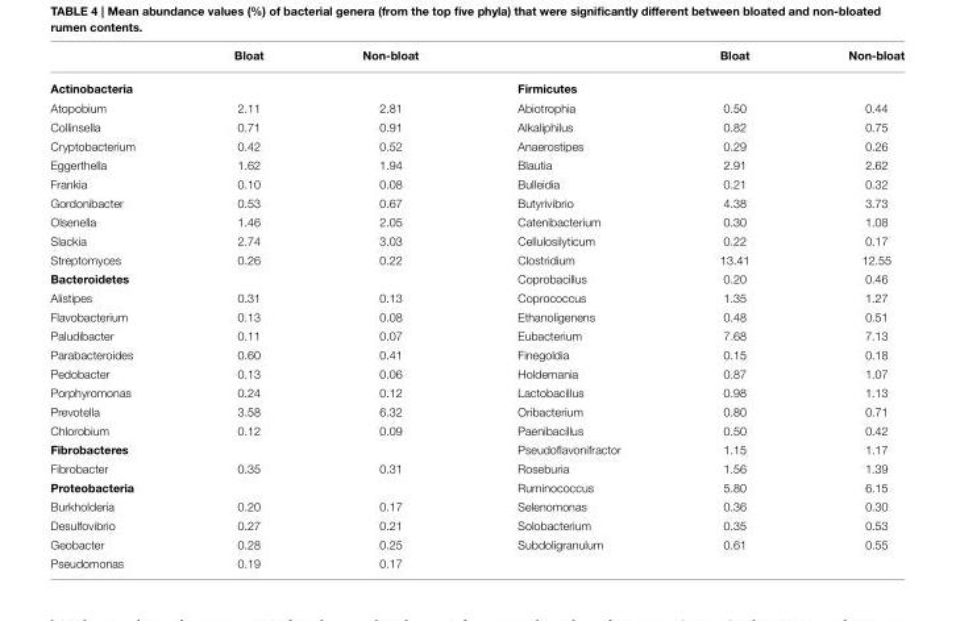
<table><thead><tr><td></td><td>Bloat</td><td>Non-bloat</td><td></td><td>Bloat</td><td>Non-bloat</td></tr></thead><tbody><tr><td colspan="3">Actinobacteria</td><td colspan="3">Firmicutes</td></tr><tr><td>Atopobium</td><td>2.11</td><td>2.81</td><td>Abiotrophia</td><td>0.50</td><td>0.44</td></tr><tr><td>Collinsella</td><td>0.71</td><td>0.91</td><td>Alkaliphilus</td><td>0.82</td><td>0.75</td></tr><tr><td>Cryptobacterium</td><td>0.42</td><td>0.52</td><td>Anaerostipes</td><td>0.29</td><td>0.26</td></tr><tr><td>Eggerthella</td><td>1.62</td><td>1.94</td><td>Blautia</td><td>2.91</td><td>2.62</td></tr><tr><td>Frankia</td><td>0.10</td><td>0.08</td><td>Bulleidia</td><td>0.21</td><td>0.32</td></tr><tr><td>Gordonibacter</td><td>0.53</td><td>0.67</td><td>Butyrivibrio</td><td>4.38</td><td>3.73</td></tr><tr><td>Olsenella</td><td>1.46</td><td>2.05</td><td>Catenibacterium</td><td>0.30</td><td>1.08</td></tr><tr><td>Slackia</td><td>2.74</td><td>3.03</td><td>Cellulosilyticum</td><td>0.22</td><td>0.17</td></tr><tr><td>Streptomyces</td><td>0.26</td><td>0.22</td><td>Clostridium</td><td>13.41</td><td>12.55</td></tr><tr><td colspan="3">Bacteroidetes</td><td>Coprobacillus</td><td>0.20</td><td>0.46</td></tr><tr><td>Alistipes</td><td>0.31</td><td>0.13</td><td>Coprococcus</td><td>1.35</td><td>1.27</td></tr><tr><td>Flavobacterium</td><td>0.13</td><td>0.08</td><td>Ethanoligenens</td><td>0.48</td><td>0.51</td></tr><tr><td>Paludibacter</td><td>0.11</td><td>0.07</td><td>Eubacterium</td><td>7.68</td><td>7.13</td></tr><tr><td>Parabacteroides</td><td>0.60</td><td>0.41</td><td>Finegoldia</td><td>0.15</td><td>0.18</td></tr><tr><td>Pedobacter</td><td>0.13</td><td>0.06</td><td>Holdemania</td><td>0.87</td><td>1.07</td></tr><tr><td>Porphyromonas</td><td>0.24</td><td>0.12</td><td>Lactobacillus</td><td>0.98</td><td>1.13</td></tr><tr><td>Prevotella</td><td>3.58</td><td>6.32</td><td>Oribacterium</td><td>0.80</td><td>0.71</td></tr><tr><td>Chlorobium</td><td>0.12</td><td>0.09</td><td>Paenibacillus</td><td>0.50</td><td>0.42</td></tr><tr><td colspan="3">Fibrobacteres</td><td>Pseudoflavonifractor</td><td>1.15</td><td>1.17</td></tr><tr><td>Fibrobacter</td><td>0.35</td><td>0.31</td><td>Roseburia</td><td>1.56</td><td>1.39</td></tr><tr><td colspan="3">Proteobacteria</td><td>Ruminococcus</td><td>5.80</td><td>6.15</td></tr><tr><td>Burkholderia</td><td>0.20</td><td>0.17</td><td>Selenomonas</td><td>0.36</td><td>0.30</td></tr><tr><td>Desulfovibrio</td><td>0.27</td><td>0.21</td><td>Solobacterium</td><td>0.35</td><td>0.53</td></tr><tr><td>Geobacter</td><td>0.28</td><td>0.25</td><td>Subdoligranulum</td><td>0.61</td><td>0.55</td></tr><tr><td>Pseudomonas</td><td>0.19</td><td>0.17</td><td></td><td></td><td></td></tr></tbody></table>